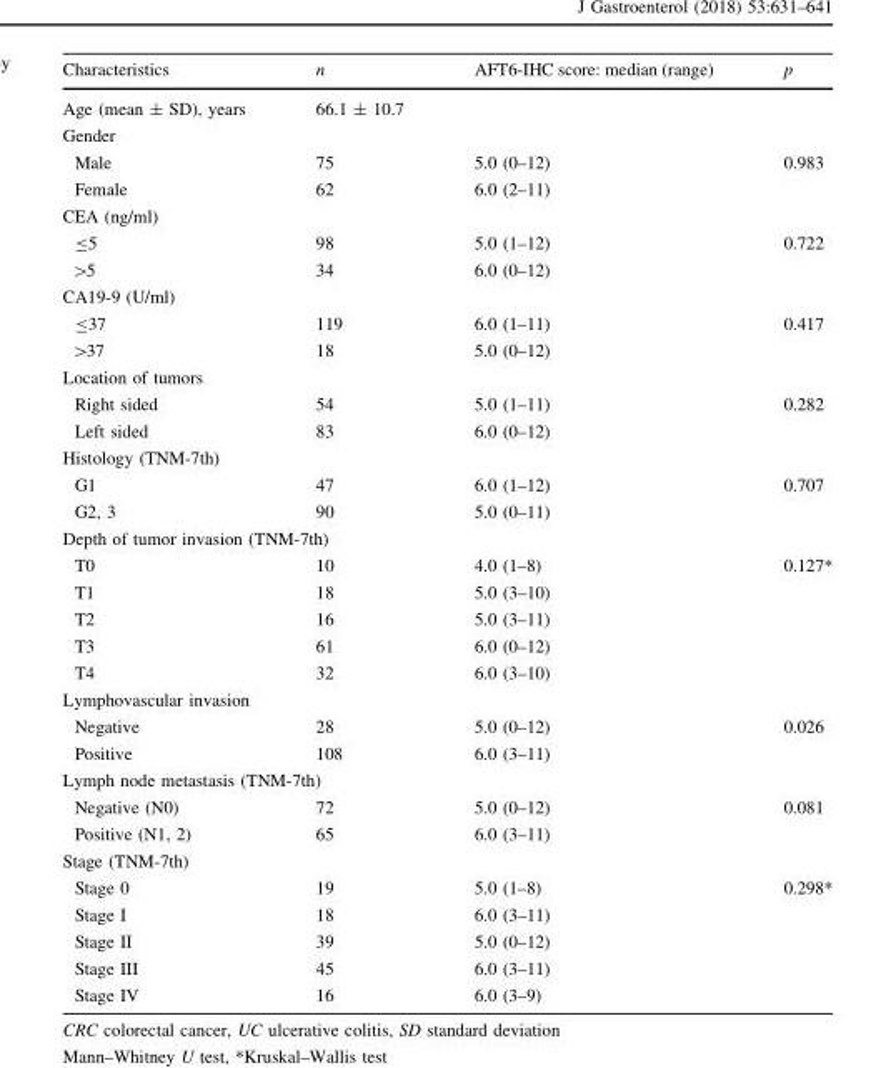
<table><thead><tr><td>Characteristics</td><td>n</td><td>AFT6-IHC score: median (range)</td><td>p</td></tr></thead><tbody><tr><td>Age (mean ± SD), years</td><td>66.1 ± 10.7</td><td></td><td></td></tr><tr><td colspan="4">Gender</td></tr><tr><td>Male</td><td>75</td><td>5.0 (0–12)</td><td rowspan="2">0.983</td></tr><tr><td>Female</td><td>62</td><td>6.0 (2–11)</td></tr><tr><td colspan="4">CEA (ng/ml)</td></tr><tr><td>≤5</td><td>98</td><td>5.0 (1–12)</td><td rowspan="2">0.722</td></tr><tr><td>&gt;5</td><td>34</td><td>6.0 (0–12)</td></tr><tr><td colspan="4">CA19-9 (U/ml)</td></tr><tr><td>≤37</td><td>119</td><td>6.0 (1–11)</td><td rowspan="2">0.417</td></tr><tr><td>&gt;37</td><td>18</td><td>5.0 (0–12)</td></tr><tr><td colspan="4">Location of tumors</td></tr><tr><td>Right sided</td><td>54</td><td>5.0 (1–11)</td><td rowspan="2">0.282</td></tr><tr><td>Left sided</td><td>83</td><td>6.0 (0–12)</td></tr><tr><td colspan="4">Histology (TNM-7th)</td></tr><tr><td>G1</td><td>47</td><td>6.0 (1–12)</td><td rowspan="2">0.707</td></tr><tr><td>G2, 3</td><td>90</td><td>5.0 (0–11)</td></tr><tr><td colspan="4">Depth of tumor invasion (TNM-7th)</td></tr><tr><td>T0</td><td>10</td><td>4.0 (1–8)</td><td rowspan="5">0.127*</td></tr><tr><td>T1</td><td>18</td><td>5.0 (3–10)</td></tr><tr><td>T2</td><td>16</td><td>5.0 (3–11)</td></tr><tr><td>T3</td><td>61</td><td>6.0 (0–12)</td></tr><tr><td>T4</td><td>32</td><td>6.0 (3–10)</td></tr><tr><td colspan="4">Lymphovascular invasion</td></tr><tr><td>Negative</td><td>28</td><td>5.0 (0–12)</td><td rowspan="2">0.026</td></tr><tr><td>Positive</td><td>108</td><td>6.0 (3–11)</td></tr><tr><td colspan="4">Lymph node metastasis (TNM-7th)</td></tr><tr><td>Negative (N0)</td><td>72</td><td>5.0 (0–12)</td><td rowspan="2">0.081</td></tr><tr><td>Positive (N1, 2)</td><td>65</td><td>6.0 (3–11)</td></tr><tr><td colspan="4">Stage (TNM-7th)</td></tr><tr><td>Stage 0</td><td>19</td><td>5.0 (1–8)</td><td rowspan="5">0.298*</td></tr><tr><td>Stage I</td><td>18</td><td>6.0 (3–11)</td></tr><tr><td>Stage II</td><td>39</td><td>5.0 (0–12)</td></tr><tr><td>Stage III</td><td>45</td><td>6.0 (3–11)</td></tr><tr><td>Stage IV</td><td>16</td><td>6.0 (3–9)</td></tr></tbody></table>